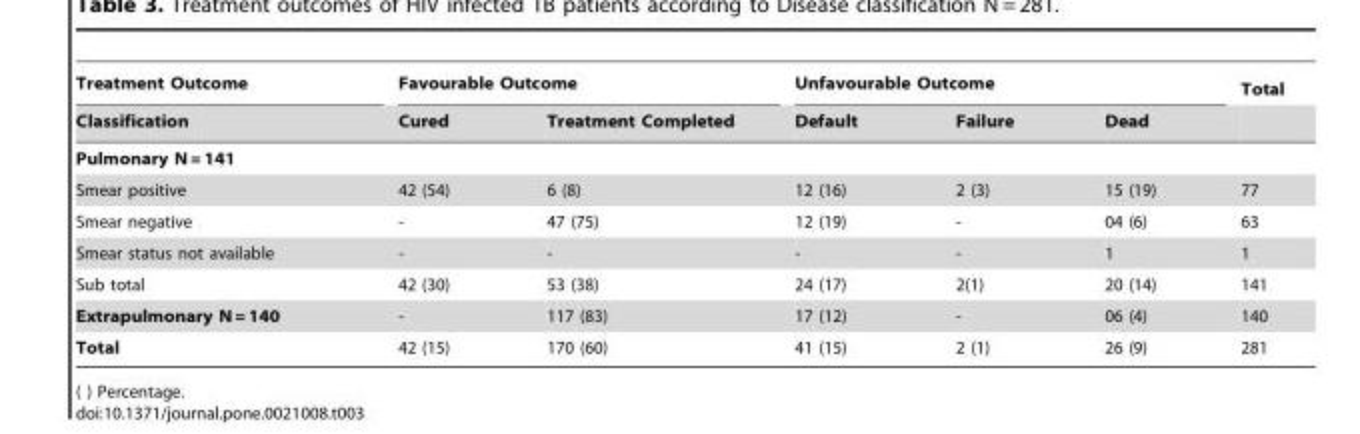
<table><thead><tr><td rowspan="2">Treatment Outcome Classification</td><td colspan="2">Favourable Outcome</td><td colspan="3">Unfavourable Outcome</td><td rowspan="2">Total</td></tr><tr><td>Cured</td><td>Treatment Completed</td><td>Default</td><td>Failure</td><td>Dead</td></tr></thead><tbody><tr><td colspan="7">Pulmonary N = 141</td></tr><tr><td>Smear positive</td><td>42 (54)</td><td>6 (8)</td><td>12 (16)</td><td>2 (3)</td><td>15 (19)</td><td>77</td></tr><tr><td>Smear negative</td><td>-</td><td>47 (75)</td><td>12 (19)</td><td>-</td><td>04 (6)</td><td>63</td></tr><tr><td>Smear status not available</td><td>-</td><td>-</td><td>-</td><td>-</td><td>1</td><td>1</td></tr><tr><td>Sub total</td><td>42 (30)</td><td>53 (38)</td><td>24 (17)</td><td>2(1)</td><td>20 (14)</td><td>141</td></tr><tr><td>Extrapulmonary N = 140</td><td>-</td><td>117 (83)</td><td>17 (12)</td><td>-</td><td>06 (4)</td><td>140</td></tr><tr><td>Total</td><td>42 (15)</td><td>170 (60)</td><td>41 (15)</td><td>2 (1)</td><td>26 (9)</td><td>281</td></tr></tbody></table>